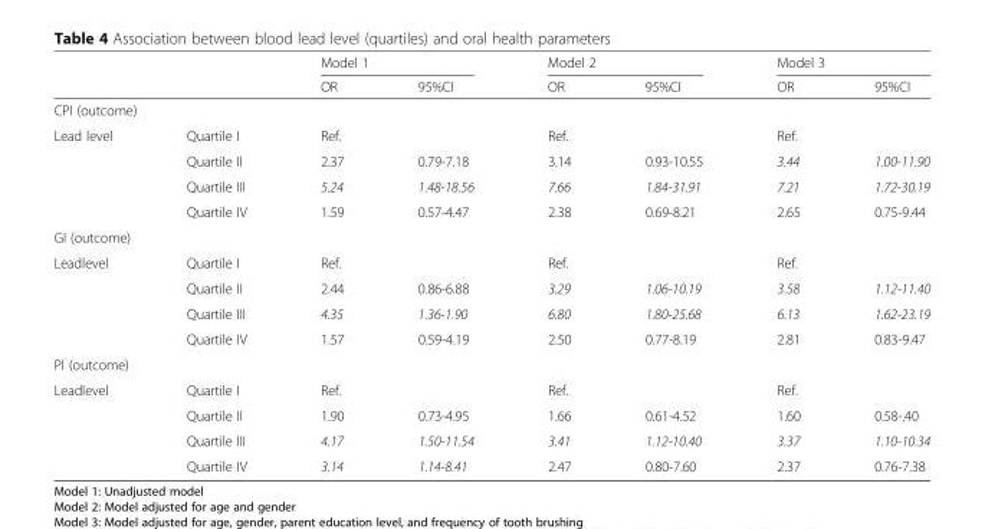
<table><thead><tr><td rowspan="2"></td><td rowspan="2"></td><td colspan="2">Model 1</td><td colspan="2">Model 2</td><td colspan="2">Model 3</td></tr><tr><td>OR</td><td>95%CI</td><td>OR</td><td>95%CI</td><td>OR</td><td>95%CI</td></tr></thead><tbody><tr><td colspan="8">CPI (outcome)</td></tr><tr><td rowspan="4">Lead level</td><td>Quartile I</td><td>Ref.</td><td></td><td>Ref.</td><td></td><td>Ref.</td><td></td></tr><tr><td>Quartile II</td><td>2.37</td><td>0.79-7.18</td><td>3.14</td><td>0.93-10.55</td><td>3.44</td><td>1.00-11.90</td></tr><tr><td>Quartile III</td><td>5.24</td><td>1.48-18.56</td><td>7.66</td><td>1.84-31.91</td><td>7.21</td><td>1.72-30.19</td></tr><tr><td>Quartile IV</td><td>1.59</td><td>0.57-4.47</td><td>2.38</td><td>0.69-8.21</td><td>2.65</td><td>0.75-9.44</td></tr><tr><td colspan="8">GI (outcome)</td></tr><tr><td rowspan="4">Leadlevel</td><td>Quartile I</td><td>Ref.</td><td></td><td>Ref.</td><td></td><td>Ref.</td><td></td></tr><tr><td>Quartile II</td><td>2.44</td><td>0.86-6.88</td><td>3.29</td><td>1.06-10.19</td><td>3.58</td><td>1.12-11.40</td></tr><tr><td>Quartile III</td><td>4.35</td><td>1.36-1.90</td><td>6.80</td><td>1.80-25.68</td><td>6.13</td><td>1.62-23.19</td></tr><tr><td>Quartile IV</td><td>1.57</td><td>0.59-4.19</td><td>2.50</td><td>0.77-8.19</td><td>2.81</td><td>0.83-9.47</td></tr><tr><td colspan="8">PI (outcome)</td></tr><tr><td rowspan="4">Leadlevel</td><td>Quartile I</td><td>Ref.</td><td></td><td>Ref.</td><td></td><td>Ref.</td><td></td></tr><tr><td>Quartile II</td><td>1.90</td><td>0.73-4.95</td><td>1.66</td><td>0.61-4.52</td><td>1.60</td><td>0.58-.40</td></tr><tr><td>Quartile III</td><td>4.17</td><td>1.50-11.54</td><td>3.41</td><td>1.12-10.40</td><td>3.37</td><td>1.10-10.34</td></tr><tr><td>Quartile IV</td><td>3.14</td><td>1.14-8.41</td><td>2.47</td><td>0.80-7.60</td><td>2.37</td><td>0.76-7.38</td></tr></tbody></table>